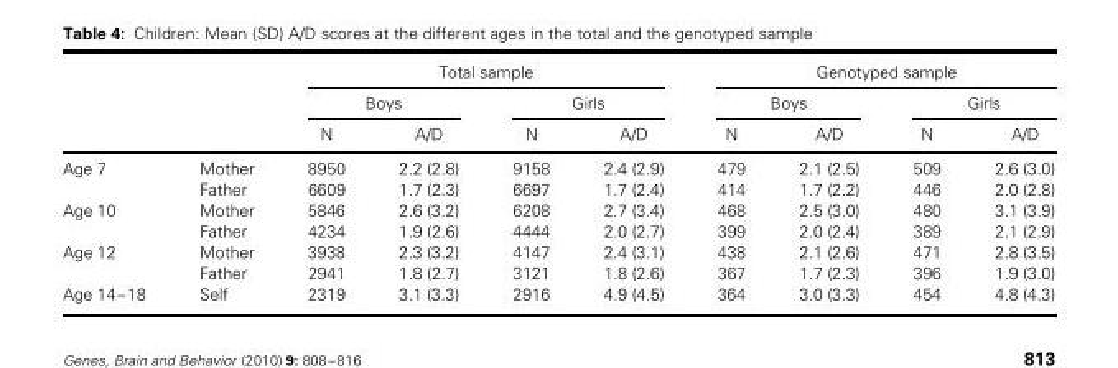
<table><thead><tr><td rowspan="3"></td><td rowspan="3"></td><td colspan="4">Total sample</td><td colspan="4">Genotyped sample</td></tr><tr><td colspan="2">Boys</td><td colspan="2">Girls</td><td colspan="2">Boys</td><td colspan="2">Girls</td></tr><tr><td>N</td><td>A/D</td><td>N</td><td>A/D</td><td>N</td><td>A/D</td><td>N</td><td>A/D</td></tr></thead><tbody><tr><td rowspan="2">Age 7</td><td>Mother</td><td>8950</td><td>2.2 (2.8)</td><td>9158</td><td>2.4 (2.9)</td><td>479</td><td>2.1 (2.5)</td><td>509</td><td>2.6 (3.0)</td></tr><tr><td>Father</td><td>6609</td><td>1.7 (2.3)</td><td>6697</td><td>1.7 (2.4)</td><td>414</td><td>1.7 (2.2)</td><td>446</td><td>2.0 (2.8)</td></tr><tr><td rowspan="2">Age 10</td><td>Mother</td><td>5846</td><td>2.6 (3.2)</td><td>6208</td><td>2.7 (3.4)</td><td>468</td><td>2.5 (3.0)</td><td>480</td><td>3.1 (3.9)</td></tr><tr><td>Father</td><td>4234</td><td>1.9 (2.6)</td><td>4444</td><td>2.0 (2.7)</td><td>399</td><td>2.0 (2.4)</td><td>389</td><td>2.1 (2.9)</td></tr><tr><td rowspan="2">Age 12</td><td>Mother</td><td>3938</td><td>2.3 (3.2)</td><td>4147</td><td>2.4 (3.1)</td><td>438</td><td>2.1 (2.6)</td><td>471</td><td>2.8 (3.5)</td></tr><tr><td>Father</td><td>2941</td><td>1.8 (2.7)</td><td>3121</td><td>1.8 (2.6)</td><td>367</td><td>1.7 (2.3)</td><td>396</td><td>1.9 (3.0)</td></tr><tr><td>Age 14–18</td><td>Self</td><td>2319</td><td>3.1 (3.3)</td><td>2916</td><td>4.9 (4.5)</td><td>364</td><td>3.0 (3.3)</td><td>454</td><td>4.8 (4.3)</td></tr></tbody></table>